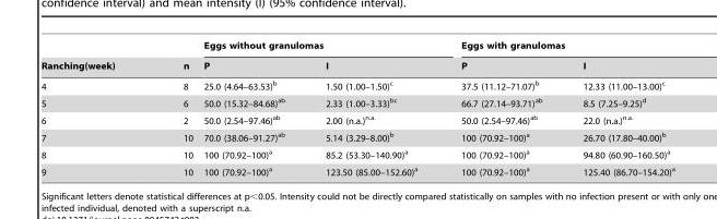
<table><thead><tr><td rowspan="2">Ranching(week)</td><td rowspan="2">n</td><td colspan="2">Eggs without granulomas</td><td colspan="2">Eggs with granulomas</td></tr><tr><td>P</td><td>I</td><td>P</td><td>I</td></tr></thead><tbody><tr><td>4</td><td>8</td><td>25.0 (4.64–63.53)<sup>b</sup></td><td>1.50 (1.00–1.50)<sup>c</sup></td><td>37.5 (11.12–71.07)<sup>b</sup></td><td>12.33 (11.00–13.00)<sup>c</sup></td></tr><tr><td>5</td><td>6</td><td>50.0 (15.32–84.68)<sup>ab</sup></td><td>2.33 (1.00–3.33)<sup>bc</sup></td><td>66.7 (27.14–93.71)<sup>ab</sup></td><td>8.5 (7.25–9.25)<sup>d</sup></td></tr><tr><td>6</td><td>2</td><td>50.0 (2.54–97.46)<sup>ab</sup></td><td>2.00 (n.a.)<sup>n.a.</sup></td><td>50.0 (2.54–97.46)<sup>ab</sup></td><td>22.0 (n.a.)<sup>n.a.</sup></td></tr><tr><td>7</td><td>10</td><td>70.0 (38.06–91.27)<sup>ab</sup></td><td>5.14 (3.29–8.00)<sup>b</sup></td><td>100 (70.92–100)<sup>a</sup></td><td>26.70 (17.80–40.00)<sup>b</sup></td></tr><tr><td>8</td><td>10</td><td>100 (70.92–100)<sup>a</sup></td><td>85.2 (53.30–140.90)<sup>a</sup></td><td>100 (70.92–100)<sup>a</sup></td><td>94.80 (60.90–160.50)<sup>a</sup></td></tr><tr><td>9</td><td>10</td><td>100 (70.92–100)<sup>a</sup></td><td>123.50 (85.00–152.60)<sup>a</sup></td><td>100 (70.92–100)<sup>a</sup></td><td>125.40 (86.70–154.20)<sup>a</sup></td></tr></tbody></table>